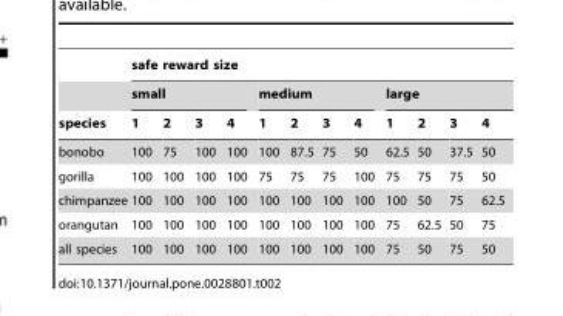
<table><thead><tr><td rowspan="3">species</td><td colspan="12">safe reward size</td></tr><tr><td colspan="4">small</td><td colspan="4">medium</td><td colspan="4">large</td></tr><tr><td>1</td><td>2</td><td>3</td><td>4</td><td>1</td><td>2</td><td>3</td><td>4</td><td>1</td><td>2</td><td>3</td><td>4</td></tr></thead><tbody><tr><td>bonobo</td><td>100</td><td>75</td><td>100</td><td>100</td><td>100</td><td>87.5</td><td>75</td><td>50</td><td>62.5</td><td>50</td><td>37.5</td><td>50</td></tr><tr><td>gorilla</td><td>100</td><td>100</td><td>100</td><td>100</td><td>75</td><td>75</td><td>75</td><td>100</td><td>75</td><td>75</td><td>75</td><td>50</td></tr><tr><td>chimpanzee</td><td>100</td><td>100</td><td>100</td><td>100</td><td>100</td><td>100</td><td>100</td><td>100</td><td>100</td><td>50</td><td>75</td><td>62.5</td></tr><tr><td>orangutan</td><td>100</td><td>100</td><td>100</td><td>100</td><td>100</td><td>100</td><td>100</td><td>100</td><td>75</td><td>62.5</td><td>50</td><td>75</td></tr><tr><td>all species</td><td>100</td><td>100</td><td>100</td><td>100</td><td>100</td><td>100</td><td>100</td><td>100</td><td>75</td><td>50</td><td>75</td><td>50</td></tr></tbody></table>